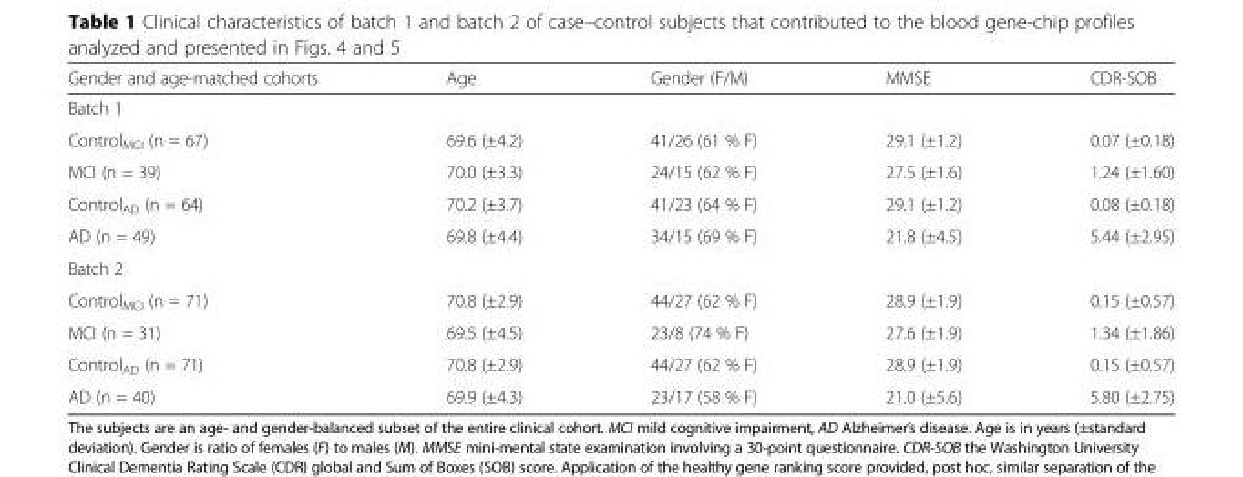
<table><thead><tr><td>Gender and age-matched cohorts</td><td>Age</td><td>Gender (F/M)</td><td>MMSE</td><td>CDR-SOB</td></tr></thead><tbody><tr><td colspan="5">Batch 1</td></tr><tr><td>Control<sub>MCI</sub> (n = 67)</td><td>69.6 (±4.2)</td><td>41/26 (61 % F)</td><td>29.1 (±1.2)</td><td>0.07 (±0.18)</td></tr><tr><td>MCI (n = 39)</td><td>70.0 (±3.3)</td><td>24/15 (62 % F)</td><td>27.5 (±1.6)</td><td>1.24 (±1.60)</td></tr><tr><td>Control<sub>AD</sub> (n = 64)</td><td>70.2 (±3.7)</td><td>41/23 (64 % F)</td><td>29.1 (±1.2)</td><td>0.08 (±0.18)</td></tr><tr><td>AD (n = 49)</td><td>69.8 (±4.4)</td><td>34/15 (69 % F)</td><td>21.8 (±4.5)</td><td>5.44 (±2.95)</td></tr><tr><td colspan="5">Batch 2</td></tr><tr><td>Control<sub>MCI</sub> (n = 71)</td><td>70.8 (±2.9)</td><td>44/27 (62 % F)</td><td>28.9 (±1.9)</td><td>0.15 (±0.57)</td></tr><tr><td>MCI (n = 31)</td><td>69.5 (±4.5)</td><td>23/8 (74 % F)</td><td>27.6 (±1.9)</td><td>1.34 (±1.86)</td></tr><tr><td>Control<sub>AD</sub> (n = 71)</td><td>70.8 (±2.9)</td><td>44/27 (62 % F)</td><td>28.9 (±1.9)</td><td>0.15 (±0.57)</td></tr><tr><td>AD (n = 40)</td><td>69.9 (±4.3)</td><td>23/17 (58 % F)</td><td>21.0 (±5.6)</td><td>5.80 (±2.75)</td></tr></tbody></table>